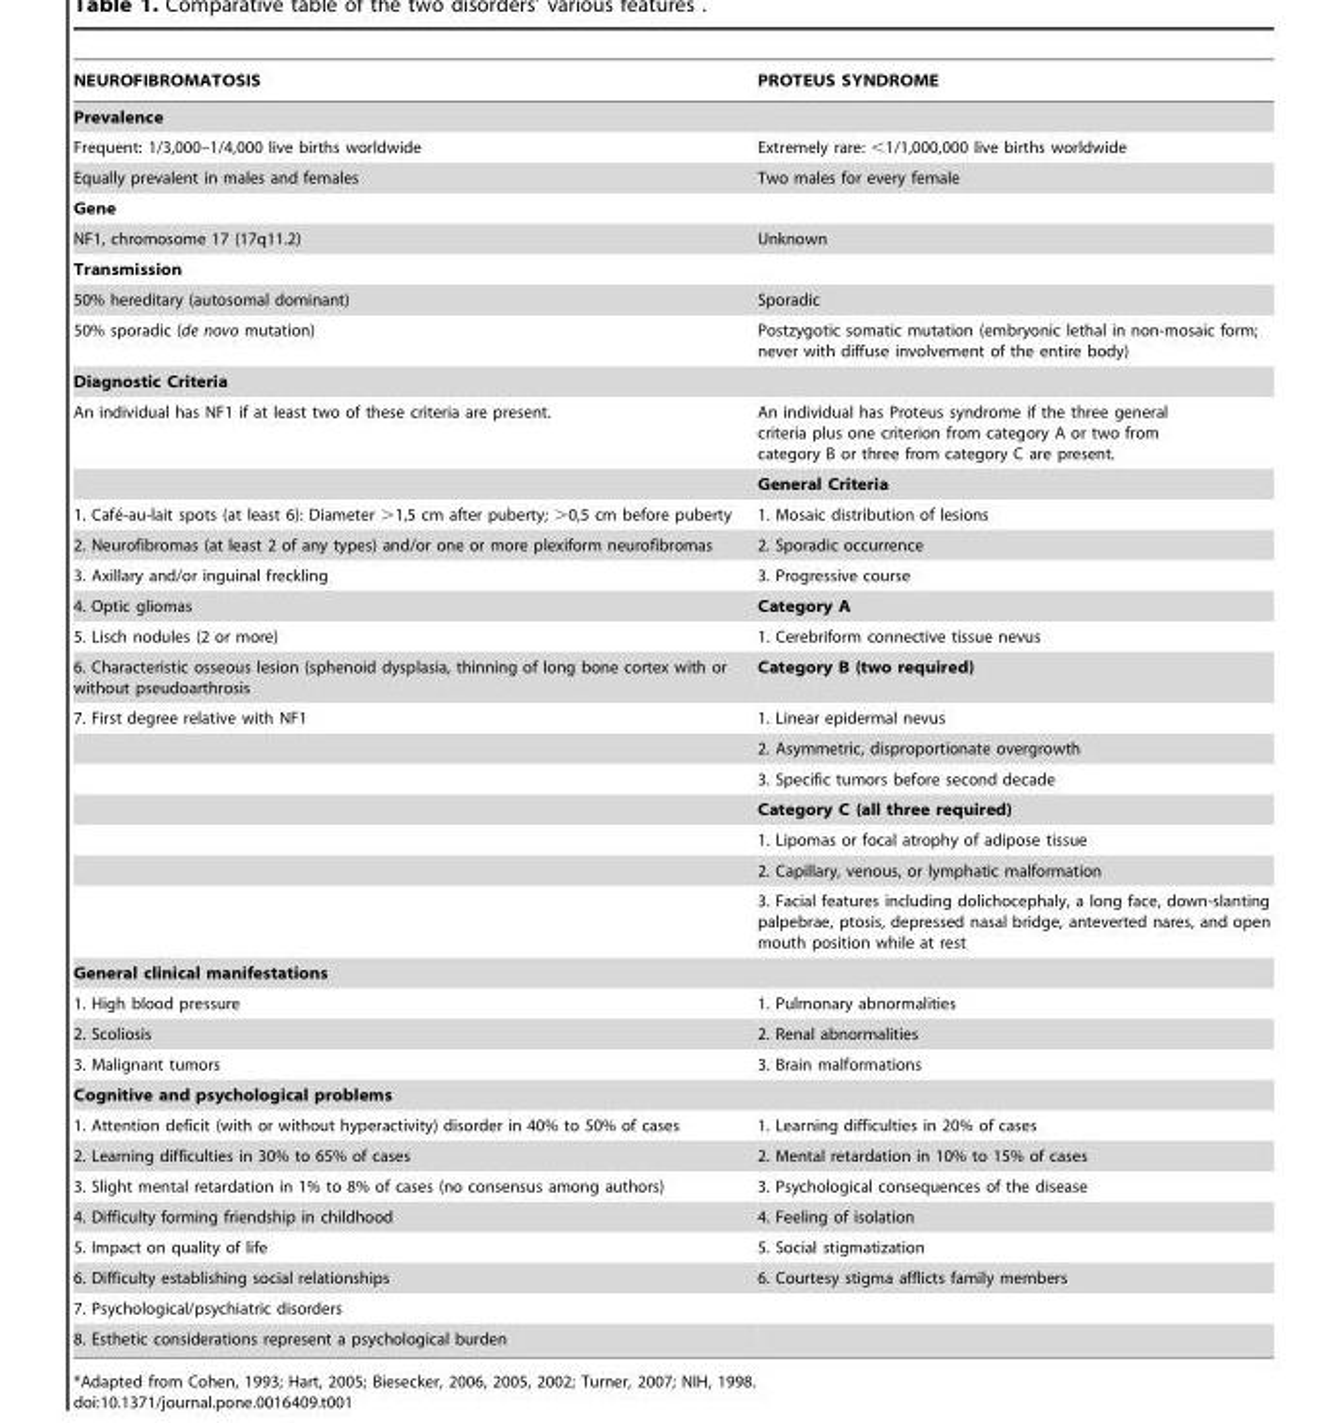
<table><thead><tr><td>NEUROFIBROMATOSIS</td><td>PROTEUS SYNDROME</td></tr></thead><tbody><tr><td colspan="2">Prevalence</td></tr><tr><td>Frequent: 1/3,000–1/4,000 live births worldwide</td><td>Extremely rare: &lt;1/1,000,000 live births worldwide</td></tr><tr><td>Equally prevalent in males and females</td><td>Two males for every female</td></tr><tr><td colspan="2">Gene</td></tr><tr><td>NF1, chromosome 17 (17q11.2)</td><td>Unknown</td></tr><tr><td colspan="2">Transmission</td></tr><tr><td>50% hereditary (autosomal dominant)</td><td>Sporadic</td></tr><tr><td>50% sporadic (de novo mutation)</td><td>Postzygotic somatic mutation (embryonic lethal in non-mosaic form; never with diffuse involvement of the entire body)</td></tr><tr><td colspan="2">Diagnostic Criteria</td></tr><tr><td rowspan="2">An individual has NF1 if at least two of these criteria are present.</td><td>An individual has Proteus syndrome if the three general criteria plus one criterion from category A or two from category B or three from category C are present.</td></tr><tr><td>General Criteria</td></tr><tr><td>1. Cafe´-au-lait spots (at least 6): Diameter .1,5 cm after puberty; .0,5 cm before puberty</td><td>1. Mosaic distribution of lesions</td></tr><tr><td>2. Neurofibromas (at least 2 of any types) and/or one or more plexiform neurofibromas</td><td>2. Sporadic occurrence</td></tr><tr><td>3. Axillary and/or inguinal freckling</td><td>3. Progressive course</td></tr><tr><td>4. Optic gliomas</td><td>Category A</td></tr><tr><td>5. Lisch nodules (2 or more)</td><td>1. Cerebriform connective tissue nevus</td></tr><tr><td>6. Characteristic osseous lesion (sphenoid dysplasia, thinning of long bone cortex with or without pseudoarthrosis</td><td>Category B (two required)</td></tr><tr><td rowspan="7">7. First degree relative with NF1</td><td>1. Linear epidermal nevus</td></tr><tr><td>2. Asymmetric, disproportionate overgrowth</td></tr><tr><td>3. Specific tumors before second decade</td></tr><tr><td>Category C (all three required)</td></tr><tr><td>1. Lipomas or focal atrophy of adipose tissue</td></tr><tr><td>2. Capillary, venous, or lymphatic malformation</td></tr><tr><td>3. Facial features including dolichocephaly, a long face, down-slanting palpebrae, ptosis, depressed nasal bridge, anteverted nares, and open mouth position while at rest</td></tr><tr><td colspan="2">General clinical manifestations</td></tr><tr><td>1. High blood pressure</td><td>1. Pulmonary abnormalities</td></tr><tr><td>2. Scoliosis</td><td>2. Renal abnormalities</td></tr><tr><td>3. Malignant tumors</td><td>3. Brain malformations</td></tr><tr><td colspan="2">Cognitive and psychological problems</td></tr><tr><td>1. Attention deficit (with or without hyperactivity) disorder in 40% to 50% of cases</td><td>1. Learning difficulties in 20% of cases</td></tr><tr><td>2. Learning difficulties in 30% to 65% of cases</td><td>2. Mental retardation in 10% to 15% of cases</td></tr><tr><td>3. Slight mental retardation in 1% to 8% of cases (no consensus among authors)</td><td>3. Psychological consequences of the disease</td></tr><tr><td>4. Difficulty forming friendship in childhood</td><td>4. Feeling of isolation</td></tr><tr><td>5. Impact on quality of life</td><td>5. Social stigmatization</td></tr><tr><td>6. Difficulty establishing social relationships</td><td>6. Courtesy stigma afflicts family members</td></tr><tr><td colspan="2">7. Psychological/psychiatric disorders</td></tr><tr><td>8. Esthetic considerations represent a psychological burden</td><td></td></tr></tbody></table>